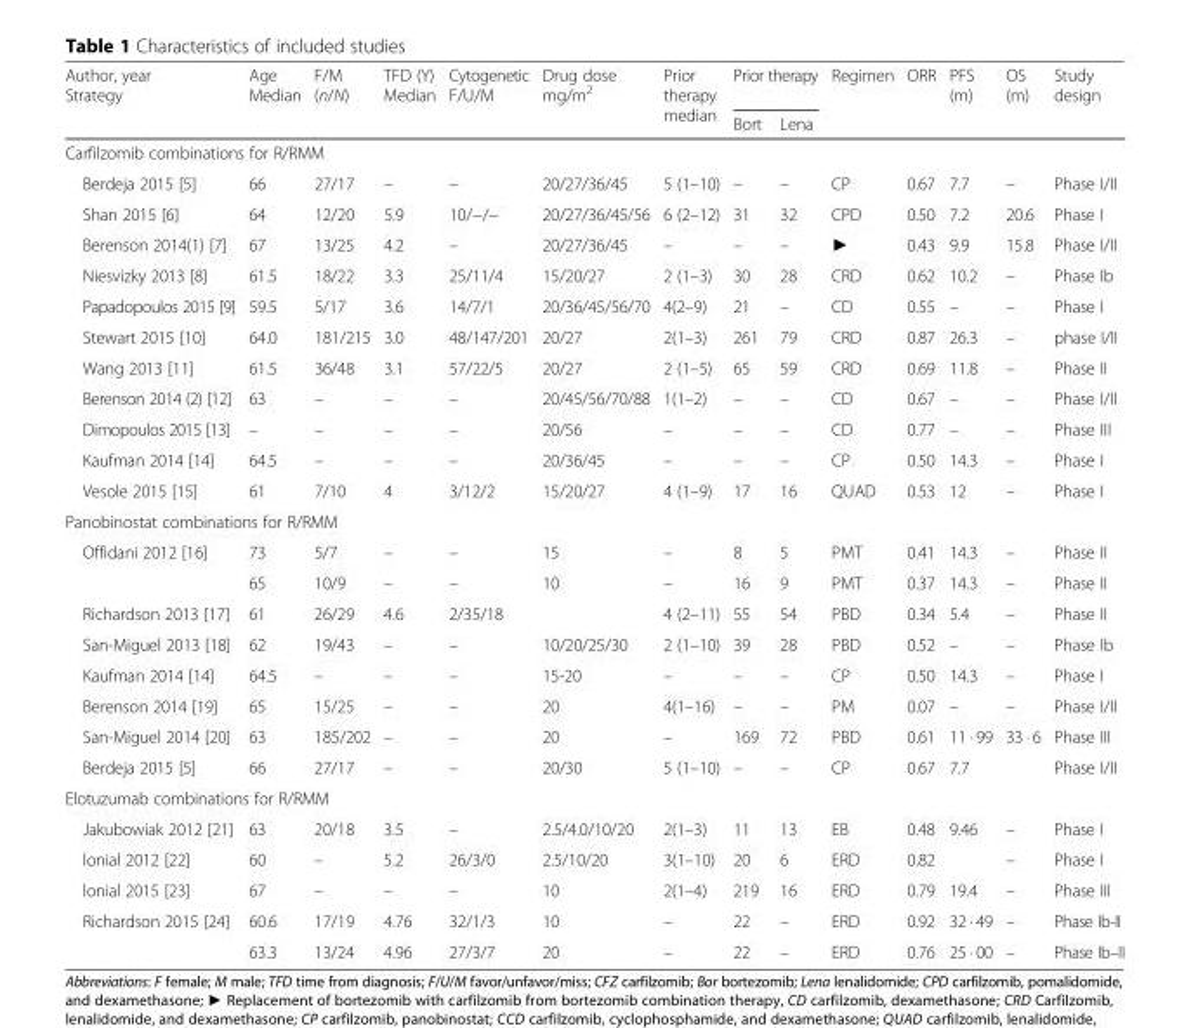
<table><thead><tr><td rowspan="2">Author, year Strategy</td><td rowspan="2">Age Median</td><td rowspan="2">F/M (n/N)</td><td rowspan="2">TFD (Y) Median</td><td rowspan="2">Cytogenetic F/U/M</td><td rowspan="2">Drug dose mg/m<sup>2</sup></td><td rowspan="2">Prior therapy median</td><td colspan="2">Prior therapy</td><td rowspan="2">Regimen</td><td rowspan="2">ORR</td><td rowspan="2">PFS (m)</td><td rowspan="2">OS (m)</td><td rowspan="2">Study design</td></tr><tr><td>Bort</td><td>Lena</td></tr></thead><tbody><tr><td colspan="14">Carfilzomib combinations for R/RMM</td></tr><tr><td>Berdeja 2015 [5]</td><td>66</td><td>27/17</td><td>–</td><td>–</td><td>20/27/36/45</td><td>5 (1–10)</td><td>–</td><td>–</td><td>CP</td><td>0.67</td><td>7.7</td><td>–</td><td>Phase I/II</td></tr><tr><td>Shan 2015 [6]</td><td>64</td><td>12/20</td><td>5.9</td><td>10/−/−</td><td>20/27/36/45/56</td><td>6 (2–12)</td><td>31</td><td>32</td><td>CPD</td><td>0.50</td><td>7.2</td><td>20.6</td><td>Phase I</td></tr><tr><td>Berenson 2014(1) [7]</td><td>67</td><td>13/25</td><td>4.2</td><td>–</td><td>20/27/36/45</td><td>–</td><td>–</td><td>–</td><td>►</td><td>0.43</td><td>9.9</td><td>15.8</td><td>Phase I/II</td></tr><tr><td>Niesvizky 2013 [8]</td><td>61.5</td><td>18/22</td><td>3.3</td><td>25/11/4</td><td>15/20/27</td><td>2 (1–3)</td><td>30</td><td>28</td><td>CRD</td><td>0.62</td><td>10.2</td><td>–</td><td>Phase Ib</td></tr><tr><td>Papadopoulos 2015 [9]</td><td>59.5</td><td>5/17</td><td>3.6</td><td>14/7/1</td><td>20/36/45/56/70</td><td>4(2–9)</td><td>21</td><td>–</td><td>CD</td><td>0.55</td><td>–</td><td>–</td><td>Phase I</td></tr><tr><td>Stewart 2015 [10]</td><td>64.0</td><td>181/215</td><td>3.0</td><td>48/147/201</td><td>20/27</td><td>2(1–3)</td><td>261</td><td>79</td><td>CRD</td><td>0.87</td><td>26.3</td><td>–</td><td>phase I/II</td></tr><tr><td>Wang 2013 [11]</td><td>61.5</td><td>36/48</td><td>3.1</td><td>57/22/5</td><td>20/27</td><td>2 (1–5)</td><td>65</td><td>59</td><td>CRD</td><td>0.69</td><td>11.8</td><td>–</td><td>Phase II</td></tr><tr><td>Berenson 2014 (2) [12]</td><td>63</td><td>–</td><td>–</td><td>–</td><td>20/45/56/70/88</td><td>1(1–2)</td><td>–</td><td>–</td><td>CD</td><td>0.67</td><td>–</td><td>–</td><td>Phase I/II</td></tr><tr><td>Dimopoulos 2015 [13]</td><td>–</td><td>–</td><td>–</td><td>–</td><td>20/56</td><td>–</td><td>–</td><td>–</td><td>CD</td><td>0.77</td><td>–</td><td>–</td><td>Phase III</td></tr><tr><td>Kaufman 2014 [14]</td><td>64.5</td><td>–</td><td>–</td><td>–</td><td>20/36/45</td><td>–</td><td>–</td><td>–</td><td>CP</td><td>0.50</td><td>14.3</td><td>–</td><td>Phase I</td></tr><tr><td>Vesole 2015 [15]</td><td>61</td><td>7/10</td><td>4</td><td>3/12/2</td><td>15/20/27</td><td>4 (1–9)</td><td>17</td><td>16</td><td>QUAD</td><td>0.53</td><td>12</td><td>–</td><td>Phase I</td></tr><tr><td colspan="14">Panobinostat combinations for R/RMM</td></tr><tr><td rowspan="2">Offidani 2012 [16]</td><td>73</td><td>5/7</td><td>–</td><td>–</td><td>15</td><td>–</td><td>8</td><td>5</td><td>PMT</td><td>0.41</td><td>14.3</td><td>–</td><td>Phase II</td></tr><tr><td>65</td><td>10/9</td><td>–</td><td>–</td><td>10</td><td>–</td><td>16</td><td>9</td><td>PMT</td><td>0.37</td><td>14.3</td><td>–</td><td>Phase II</td></tr><tr><td>Richardson 2013 [17]</td><td>61</td><td>26/29</td><td>4.6</td><td>2/35/18</td><td></td><td>4 (2–11)</td><td>55</td><td>54</td><td>PBD</td><td>0.34</td><td>5.4</td><td>–</td><td>Phase II</td></tr><tr><td>San-Miguel 2013 [18]</td><td>62</td><td>19/43</td><td>–</td><td>–</td><td>10/20/25/30</td><td>2 (1–10)</td><td>39</td><td>28</td><td>PBD</td><td>0.52</td><td>–</td><td>–</td><td>Phase Ib</td></tr><tr><td>Kaufman 2014 [14]</td><td>64.5</td><td>–</td><td>–</td><td>–</td><td>15-20</td><td>–</td><td>–</td><td>–</td><td>CP</td><td>0.50</td><td>14.3</td><td>–</td><td>Phase I</td></tr><tr><td>Berenson 2014 [19]</td><td>65</td><td>15/25</td><td>–</td><td>–</td><td>20</td><td>4(1–16)</td><td>–</td><td>–</td><td>PM</td><td>0.07</td><td>–</td><td>–</td><td>Phase I/II</td></tr><tr><td>San-Miguel 2014 [20]</td><td>63</td><td>185/202</td><td>–</td><td>–</td><td>20</td><td>–</td><td>169</td><td>72</td><td>PBD</td><td>0.61</td><td>11 · 99</td><td>33 · 6</td><td>Phase III</td></tr><tr><td>Berdeja 2015 [5]</td><td>66</td><td>27/17</td><td>–</td><td>–</td><td>20/30</td><td>5 (1–10)</td><td>–</td><td>–</td><td>CP</td><td>0.67</td><td>7.7</td><td></td><td>Phase I/II</td></tr><tr><td colspan="14">Elotuzumab combinations for R/RMM</td></tr><tr><td>Jakubowiak 2012 [21]</td><td>63</td><td>20/18</td><td>3.5</td><td>–</td><td>2.5/4.0/10/20</td><td>2(1–3)</td><td>11</td><td>13</td><td>EB</td><td>0.48</td><td>9.46</td><td>–</td><td>Phase I</td></tr><tr><td>lonial 2012 [22]</td><td>60</td><td>–</td><td>5.2</td><td>26/3/0</td><td>2.5/10/20</td><td>3(1–10)</td><td>20</td><td>6</td><td>ERD</td><td>0.82</td><td></td><td>–</td><td>Phase I</td></tr><tr><td>lonial 2015 [23]</td><td>67</td><td>–</td><td>–</td><td>–</td><td>10</td><td>2(1–4)</td><td>219</td><td>16</td><td>ERD</td><td>0.79</td><td>19.4</td><td>–</td><td>Phase III</td></tr><tr><td rowspan="2">Richardson 2015 [24]</td><td>60.6</td><td>17/19</td><td>4.76</td><td>32/1/3</td><td>10</td><td>–</td><td>22</td><td>–</td><td>ERD</td><td>0.92</td><td>32 · 49</td><td>–</td><td>Phase Ib-II</td></tr><tr><td>63.3</td><td>13/24</td><td>4.96</td><td>27/3/7</td><td>20</td><td>–</td><td>22</td><td>–</td><td>ERD</td><td>0.76</td><td>25 · 00</td><td>–</td><td>Phase Ib–II</td></tr></tbody></table>